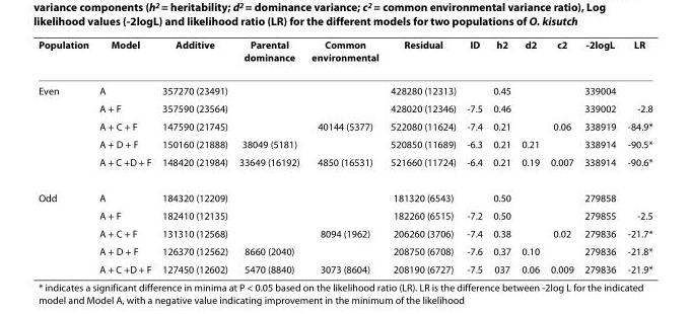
<table><thead><tr><td>Population</td><td>Model</td><td>Additive</td><td>Parental dominance</td><td>Common environmental</td><td>Residual</td><td>ID</td><td>h2</td><td>d2</td><td>c2</td><td>-2logL</td><td>LR</td></tr></thead><tbody><tr><td rowspan="5">Even</td><td>A</td><td>357270 (23491)</td><td></td><td></td><td>428280 (12313)</td><td></td><td>0.45</td><td></td><td></td><td>339004</td><td></td></tr><tr><td>A + F</td><td>357590 (23564)</td><td></td><td></td><td>428020 (12346)</td><td>-7.5</td><td>0.46</td><td></td><td></td><td>339002</td><td>-2.8</td></tr><tr><td>A + C + F</td><td>147590 (21745)</td><td></td><td>40144 (5377)</td><td>522080 (11624)</td><td>-7.4</td><td>0.21</td><td></td><td>0.06</td><td>338919</td><td>-84.9*</td></tr><tr><td>A + D + F</td><td>150160 (21888)</td><td>38049 (5181)</td><td></td><td>520850 (11689)</td><td>-6.3</td><td>0.21</td><td>0.21</td><td></td><td>338914</td><td>-90.5*</td></tr><tr><td>A + C +D + F</td><td>148420 (21984)</td><td>33649 (16192)</td><td>4850 (16531)</td><td>521660 (11724)</td><td>-6.4</td><td>0.21</td><td>0.19</td><td>0.007</td><td>338914</td><td>-90.6*</td></tr><tr><td rowspan="5">Odd</td><td>A</td><td>184320 (12209)</td><td></td><td></td><td>181320 (6543)</td><td></td><td>0.50</td><td></td><td></td><td>279858</td><td></td></tr><tr><td>A + F</td><td>182410 (12135)</td><td></td><td></td><td>182260 (6515)</td><td>-7.2</td><td>0.50</td><td></td><td></td><td>279855</td><td>-2.5</td></tr><tr><td>A + C + F</td><td>131310 (12568)</td><td></td><td>8094 (1962)</td><td>206260 (3706)</td><td>-7.4</td><td>0.38</td><td></td><td>0.02</td><td>279836</td><td>-21.7*</td></tr><tr><td>A + D + F</td><td>126370 (12562)</td><td>8660 (2040)</td><td></td><td>208750 (6708)</td><td>-7.6</td><td>0.37</td><td>0.10</td><td></td><td>279836</td><td>-21.8*</td></tr><tr><td>A + C +D + F</td><td>127450 (12602)</td><td>5470 (8840)</td><td>3073 (8604)</td><td>208190 (6727)</td><td>-7.5</td><td>037</td><td>0.06</td><td>0.009</td><td>279836</td><td>-21.9*</td></tr></tbody></table>